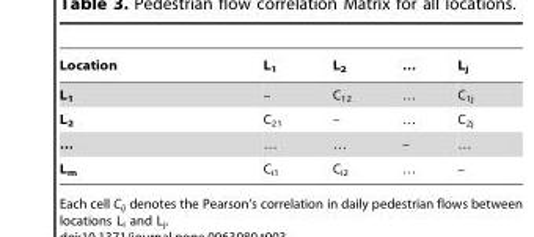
<table><thead><tr><td>Location</td><td>L<sub>1</sub></td><td>L<sub>2</sub></td><td>…</td><td>L<sub>j</sub></td></tr></thead><tbody><tr><td>L<sub>1</sub></td><td>–</td><td>C<sub>12</sub></td><td>…</td><td>C<sub>1j</sub></td></tr><tr><td>L<sub>2</sub></td><td>C<sub>21</sub></td><td>–</td><td>…</td><td>C<sub>2j</sub></td></tr><tr><td>…</td><td>…</td><td>…</td><td>–</td><td>…</td></tr><tr><td>L<sub>m</sub></td><td>C<sub>i1</sub></td><td>C<sub>i2</sub></td><td>…</td><td>–</td></tr></tbody></table>